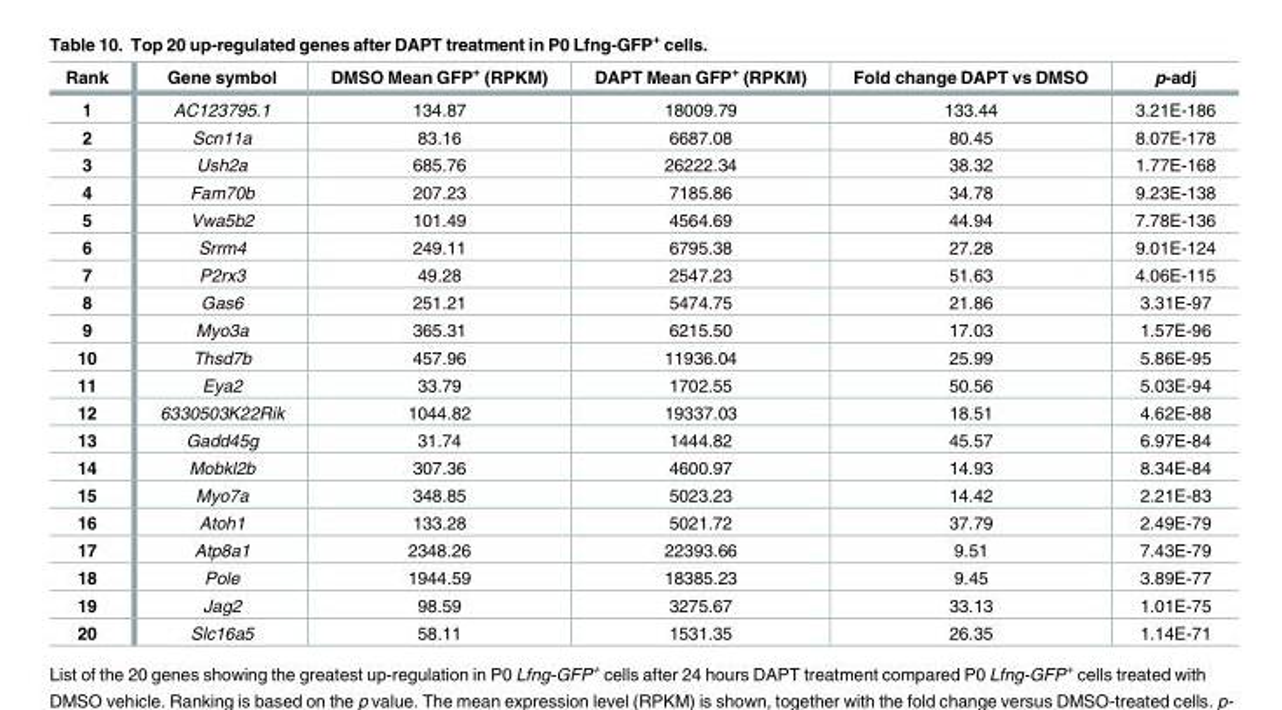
<table><thead><tr><td>Rank</td><td>Gene symbol</td><td>DMSO Mean GFP<sup>+</sup> (RPKM)</td><td>DAPT Mean GFP<sup>+</sup> (RPKM)</td><td>Fold change DAPT vs DMSO</td><td>p-adj</td></tr></thead><tbody><tr><td>1</td><td>AC123795.1</td><td>134.87</td><td>18009.79</td><td>133.44</td><td>3.21E-186</td></tr><tr><td>2</td><td>Scn11a</td><td>83.16</td><td>6687.08</td><td>80.45</td><td>8.07E-178</td></tr><tr><td>3</td><td>Ush2a</td><td>685.76</td><td>26222.34</td><td>38.32</td><td>1.77E-168</td></tr><tr><td>4</td><td>Fam70b</td><td>207.23</td><td>7185.86</td><td>34.78</td><td>9.23E-138</td></tr><tr><td>5</td><td>Vwa5b2</td><td>101.49</td><td>4564.69</td><td>44.94</td><td>7.78E-136</td></tr><tr><td>6</td><td>Srrm4</td><td>249.11</td><td>6795.38</td><td>27.28</td><td>9.01E-124</td></tr><tr><td>7</td><td>P2rx3</td><td>49.28</td><td>2547.23</td><td>51.63</td><td>4.06E-115</td></tr><tr><td>8</td><td>Gas6</td><td>251.21</td><td>5474.75</td><td>21.86</td><td>3.31E-97</td></tr><tr><td>9</td><td>Myo3a</td><td>365.31</td><td>6215.50</td><td>17.03</td><td>1.57E-96</td></tr><tr><td>10</td><td>Thsd7b</td><td>457.96</td><td>11936.04</td><td>25.99</td><td>5.86E-95</td></tr><tr><td>11</td><td>Eya2</td><td>33.79</td><td>1702.55</td><td>50.56</td><td>5.03E-94</td></tr><tr><td>12</td><td>6330503K22Rik</td><td>1044.82</td><td>19337.03</td><td>18.51</td><td>4.62E-88</td></tr><tr><td>13</td><td>Gadd45g</td><td>31.74</td><td>1444.82</td><td>45.57</td><td>6.97E-84</td></tr><tr><td>14</td><td>Mobkl2b</td><td>307.36</td><td>4600.97</td><td>14.93</td><td>8.34E-84</td></tr><tr><td>15</td><td>Myo7a</td><td>348.85</td><td>5023.23</td><td>14.42</td><td>2.21E-83</td></tr><tr><td>16</td><td>Atoh1</td><td>133.28</td><td>5021.72</td><td>37.79</td><td>2.49E-79</td></tr><tr><td>17</td><td>Atp8a1</td><td>2348.26</td><td>22393.66</td><td>9.51</td><td>7.43E-79</td></tr><tr><td>18</td><td>Pole</td><td>1944.59</td><td>18385.23</td><td>9.45</td><td>3.89E-77</td></tr><tr><td>19</td><td>Jag2</td><td>98.59</td><td>3275.67</td><td>33.13</td><td>1.01E-75</td></tr><tr><td>20</td><td>Slc16a5</td><td>58.11</td><td>1531.35</td><td>26.35</td><td>1.14E-71</td></tr></tbody></table>